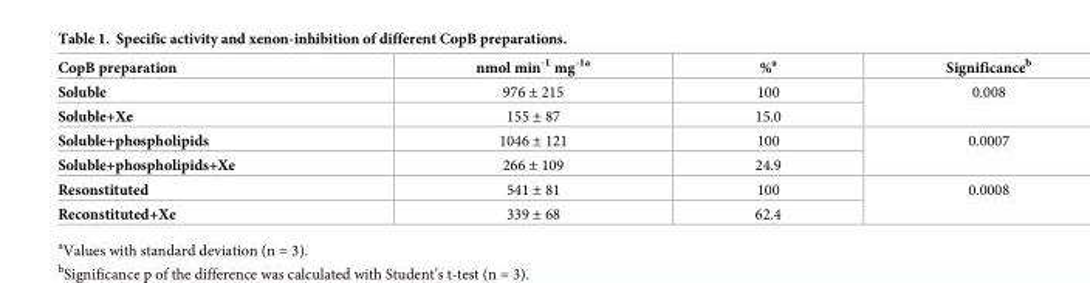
<table><thead><tr><td>CopB preparation</td><td>nmol min<sup>-1</sup> mg<sup>-1a</sup></td><td>%<sup>a</sup></td><td>Significance<sup>b</sup></td></tr></thead><tbody><tr><td>Soluble</td><td>976 ± 215</td><td>100</td><td rowspan="2">0.008</td></tr><tr><td>Soluble+Xe</td><td>155 ± 87</td><td>15.0</td></tr><tr><td>Soluble+phospholipids</td><td>1046 ± 121</td><td>100</td><td rowspan="2">0.0007</td></tr><tr><td>Soluble+phospholipids+Xe</td><td>266 ± 109</td><td>24.9</td></tr><tr><td>Resonstituted</td><td>541 ± 81</td><td>100</td><td rowspan="2">0.0008</td></tr><tr><td>Reconstituted+Xe</td><td>339 ± 68</td><td>62.4</td></tr></tbody></table>